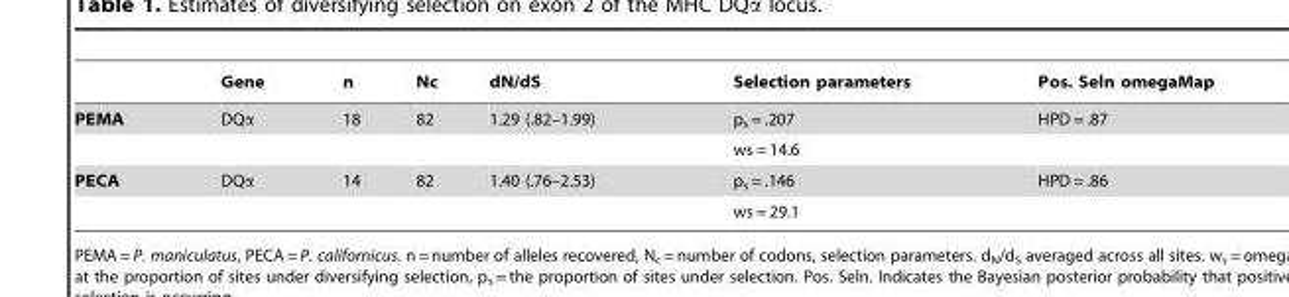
<table><thead><tr><td></td><td>Gene</td><td>n</td><td>Nc</td><td>dN/dS</td><td>Selection parameters</td><td>Pos. Seln omegaMap</td></tr></thead><tbody><tr><td rowspan="2">PEMA</td><td>DQα</td><td>18</td><td>82</td><td>1.29 (.82–1.99)</td><td>p<sub>s</sub> = .207</td><td>HPD = .87</td></tr><tr><td></td><td></td><td></td><td></td><td>ws = 14.6</td><td></td></tr><tr><td rowspan="2">PECA</td><td>DQα</td><td>14</td><td>82</td><td>1.40 (.76–2.53)</td><td>p<sub>s</sub> = .146</td><td>HPD = .86</td></tr><tr><td></td><td></td><td></td><td></td><td>ws = 29.1</td><td></td></tr></tbody></table>